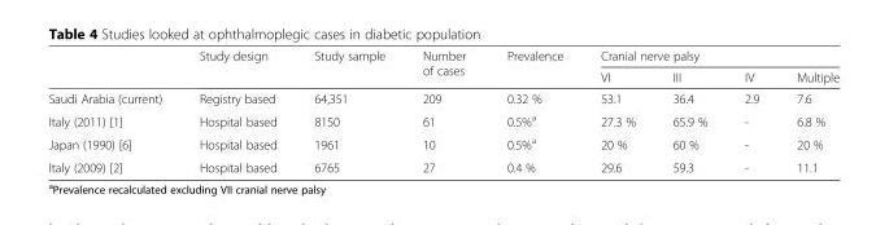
<table><thead><tr><td rowspan="2"></td><td rowspan="2">Study design</td><td rowspan="2">Study sample</td><td rowspan="2">Number of cases</td><td rowspan="2">Prevalence</td><td colspan="4">Cranial nerve palsy</td></tr><tr><td>VI</td><td>III</td><td>IV</td><td>Multiple</td></tr></thead><tbody><tr><td>Saudi Arabia (current)</td><td>Registry based</td><td>64,351</td><td>209</td><td>0.32 %</td><td>53.1</td><td>36.4</td><td>2.9</td><td>7.6</td></tr><tr><td>Italy (2011) [1]</td><td>Hospital based</td><td>8150</td><td>61</td><td>0.5%<sup>a</sup></td><td>27.3 %</td><td>65.9 %</td><td>-</td><td>6.8 %</td></tr><tr><td>Japan (1990) [6]</td><td>Hospital based</td><td>1961</td><td>10</td><td>0.5%<sup>a</sup></td><td>20 %</td><td>60 %</td><td>-</td><td>20 %</td></tr><tr><td>Italy (2009) [2]</td><td>Hospital based</td><td>6765</td><td>27</td><td>0.4 %</td><td>29.6</td><td>59.3</td><td>-</td><td>11.1</td></tr></tbody></table>